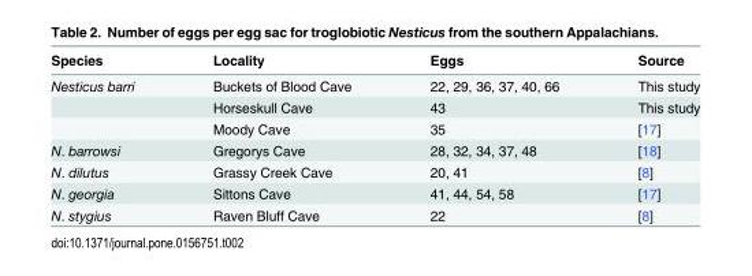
<table><thead><tr><td>Species</td><td>Locality</td><td>Eggs</td><td>Source</td></tr></thead><tbody><tr><td rowspan="3">Nesticus barri</td><td>Buckets of Blood Cave</td><td>22, 29, 36, 37, 40, 66</td><td>This study</td></tr><tr><td>Horseskull Cave</td><td>43</td><td>This study</td></tr><tr><td>Moody Cave</td><td>35</td><td>[17]</td></tr><tr><td>N. barrowsi</td><td>Gregorys Cave</td><td>28, 32, 34, 37, 48</td><td>[18]</td></tr><tr><td>N. dilutus</td><td>Grassy Creek Cave</td><td>20, 41</td><td>[8]</td></tr><tr><td>N. georgia</td><td>Sittons Cave</td><td>41, 44, 54, 58</td><td>[17]</td></tr><tr><td>N. stygius</td><td>Raven Bluff Cave</td><td>22</td><td>[8]</td></tr></tbody></table>